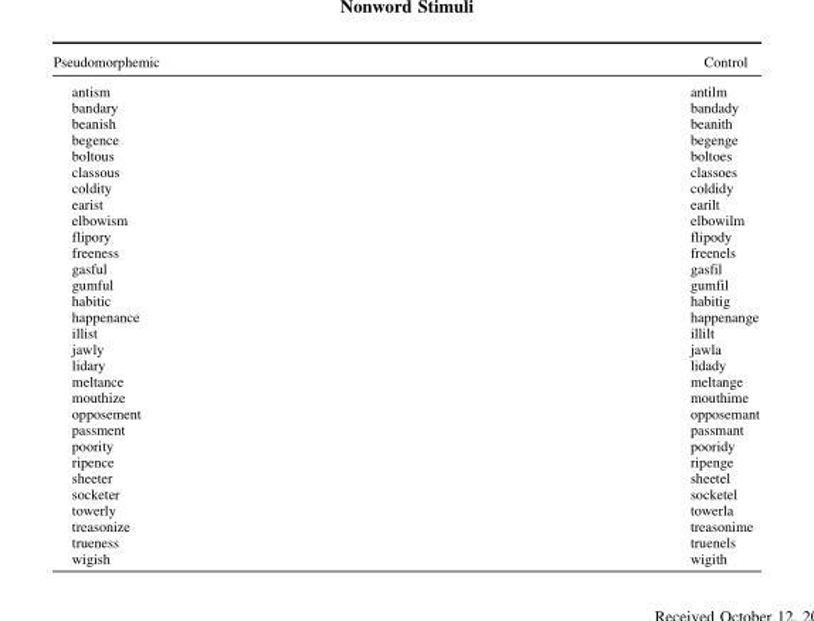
<table><thead><tr><td>Pseudomorphemic</td><td>Control</td></tr></thead><tbody><tr><td>antism</td><td>antilm</td></tr><tr><td>bandary</td><td>bandady</td></tr><tr><td>beanish</td><td>beanith</td></tr><tr><td>begence</td><td>begenge</td></tr><tr><td>boltous</td><td>boltoes</td></tr><tr><td>classous</td><td>classoes</td></tr><tr><td>coldity</td><td>coldidy</td></tr><tr><td>earist</td><td>earilt</td></tr><tr><td>elbowism</td><td>elbowilm</td></tr><tr><td>flipory</td><td>flipody</td></tr><tr><td>freeness</td><td>freenels</td></tr><tr><td>gasful</td><td>gasfil</td></tr><tr><td>gumful</td><td>gumfil</td></tr><tr><td>habitic</td><td>habitig</td></tr><tr><td>happenance</td><td>happenange</td></tr><tr><td>illist</td><td>illilt</td></tr><tr><td>jawly</td><td>jawla</td></tr><tr><td>lidary</td><td>lidady</td></tr><tr><td>meltance</td><td>meltange</td></tr><tr><td>mouthize</td><td>mouthime</td></tr><tr><td>opposement</td><td>opposemant</td></tr><tr><td>passment</td><td>passmant</td></tr><tr><td>poority</td><td>pooridy</td></tr><tr><td>ripence</td><td>ripenge</td></tr><tr><td>sheeter</td><td>sheetel</td></tr><tr><td>socketer</td><td>socketel</td></tr><tr><td>towerly</td><td>towerla</td></tr><tr><td>treasonize</td><td>treasonime</td></tr><tr><td>trueness</td><td>truenels</td></tr><tr><td>wigish</td><td>wigith</td></tr></tbody></table>